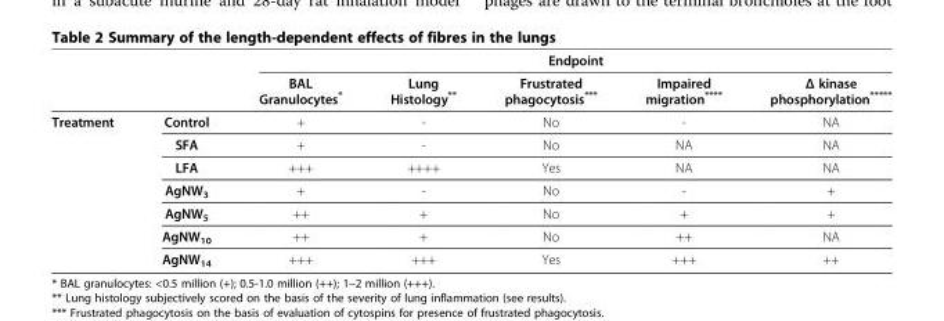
<table><thead><tr><td rowspan="2"></td><td rowspan="2"></td><td colspan="5">Endpoint</td></tr><tr><td>BAL Granulocytes*</td><td>Lung Histology**</td><td>Frustrated phagocytosis***</td><td>Impaired migration****</td><td>Δ kinase phosphorylation*****</td></tr></thead><tbody><tr><td rowspan="7">Treatment</td><td>Control</td><td>+</td><td>-</td><td>No</td><td>-</td><td>NA</td></tr><tr><td>SFA</td><td>+</td><td>-</td><td>No</td><td>NA</td><td>NA</td></tr><tr><td>LFA</td><td>+++</td><td>++++</td><td>Yes</td><td>NA</td><td>NA</td></tr><tr><td>AgNW<sub>3</sub></td><td>+</td><td>-</td><td>No</td><td>-</td><td>+</td></tr><tr><td>AgNW<sub>5</sub></td><td>++</td><td>+</td><td>No</td><td>+</td><td>+</td></tr><tr><td>AgNW<sub>10</sub></td><td>++</td><td>+</td><td>No</td><td>++</td><td>NA</td></tr><tr><td>AgNW<sub>14</sub></td><td>+++</td><td>+++</td><td>Yes</td><td>+++</td><td>++</td></tr></tbody></table>